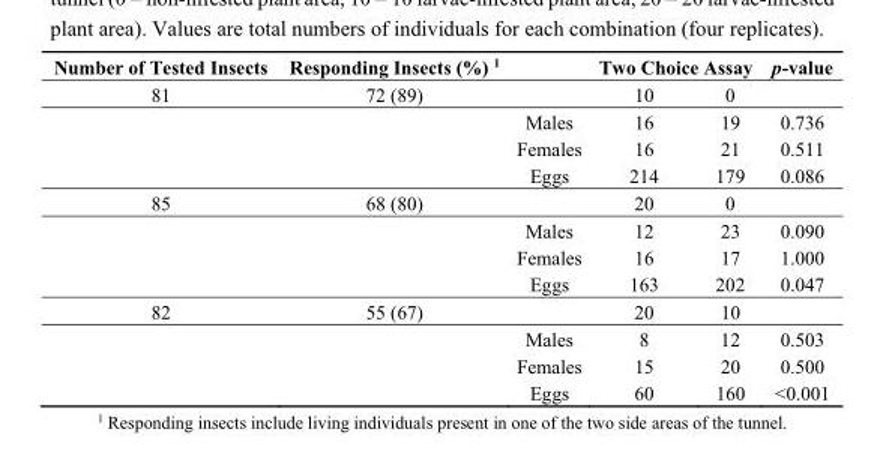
<table><thead><tr><td rowspan="2">Number of Tested Insects 81</td><td rowspan="2">Responding Insects (%) <sup>1</sup> 72 (89)</td><td rowspan="2"></td><td colspan="2">Two Choice Assay</td><td rowspan="2">p-value</td></tr><tr><td>10</td><td>0</td></tr></thead><tbody><tr><td></td><td></td><td>Males</td><td>16</td><td>19</td><td>0.736</td></tr><tr><td></td><td></td><td>Females</td><td>16</td><td>21</td><td>0.511</td></tr><tr><td></td><td></td><td>Eggs</td><td>214</td><td>179</td><td>0.086</td></tr><tr><td rowspan="4">85</td><td>68 (80)</td><td></td><td>20</td><td>0</td><td></td></tr><tr><td></td><td>Males</td><td>12</td><td>23</td><td>0.090</td></tr><tr><td></td><td>Females</td><td>16</td><td>17</td><td>1.000</td></tr><tr><td></td><td>Eggs</td><td>163</td><td>202</td><td>0.047</td></tr><tr><td rowspan="4">82</td><td>55 (67)</td><td></td><td>20</td><td>10</td><td></td></tr><tr><td></td><td>Males</td><td>8</td><td>12</td><td>0.503</td></tr><tr><td></td><td>Females</td><td>15</td><td>20</td><td>0.500</td></tr><tr><td></td><td>Eggs</td><td>60</td><td>160</td><td>&lt;0.001</td></tr></tbody></table>